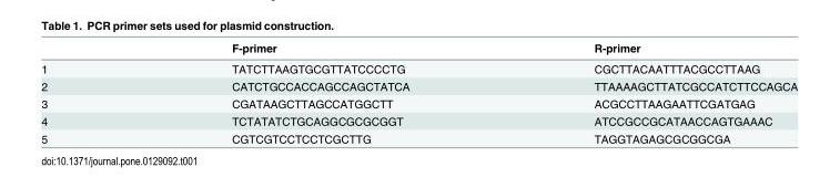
<table><thead><tr><td></td><td>F-primer</td><td>R-primer</td></tr></thead><tbody><tr><td>1</td><td>TATCTTAAGTGCGTTATCCCCTG</td><td>CGCTTACAATTTACGCCTTAAG</td></tr><tr><td>2</td><td>CATCTGCCACCAGCCAGCTATCA</td><td>TTAAAAGCTTATCGCCATCTTCCAGCA</td></tr><tr><td>3</td><td>CGATAAGCTTAGCCATGGCTT</td><td>ACGCCTTAAGAATTCGATGAG</td></tr><tr><td>4</td><td>TCTATATCTGCAGGCGCGCGGT</td><td>ATCCGCCGCATAACCAGTGAAAC</td></tr><tr><td>5</td><td>CGTCGTCCTCCTCGCTTG</td><td>TAGGTAGAGCGCGGCGA</td></tr></tbody></table>